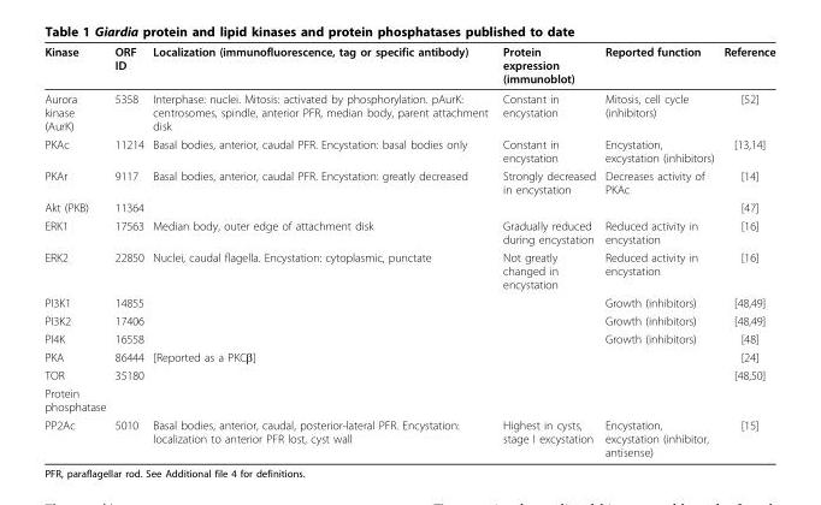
<table><thead><tr><td>Kinase</td><td>ORF ID</td><td>Localization (immunofluorescence, tag or specific antibody)</td><td>Protein expression (immunoblot)</td><td>Reported function</td><td>Reference</td></tr></thead><tbody><tr><td>Aurora kinase (AurK)</td><td>5358</td><td>Interphase: nuclei. Mitosis: activated by phosphorylation. pAurK: centrosomes, spindle, anterior PFR, median body, parent attachment disk</td><td>Constant in encystation</td><td>Mitosis, cell cycle (inhibitors)</td><td>[52]</td></tr><tr><td>PKAc</td><td>11214</td><td>Basal bodies, anterior, caudal PFR. Encystation: basal bodies only</td><td>Constant in encystation</td><td>Encystation, excystation (inhibitors)</td><td>[13,14]</td></tr><tr><td>PKAr</td><td>9117</td><td>Basal bodies, anterior, caudal PFR. Encystation: greatly decreased</td><td>Strongly decreased in encystation</td><td>Decreases activity of PKAc</td><td>[14]</td></tr><tr><td>Akt (PKB)</td><td>11364</td><td></td><td></td><td></td><td>[47]</td></tr><tr><td>ERK1</td><td>17563</td><td>Median body, outer edge of attachment disk</td><td>Gradually reduced during encystation</td><td>Reduced activity in encystation</td><td>[16]</td></tr><tr><td>ERK2</td><td>22850</td><td>Nuclei, caudal flagella. Encystation: cytoplasmic, punctate</td><td>Not greatly changed in encystation</td><td>Reduced activity in encystation</td><td>[16]</td></tr><tr><td>PI3K1</td><td>14855</td><td></td><td></td><td>Growth (inhibitors)</td><td>[48,49]</td></tr><tr><td>PI3K2</td><td>17406</td><td></td><td></td><td>Growth (inhibitors)</td><td>[48,49]</td></tr><tr><td>PI4K</td><td>16558</td><td></td><td></td><td>Growth (inhibitors)</td><td>[48]</td></tr><tr><td>PKA</td><td>86444</td><td>[Reported as a PKCβ]</td><td></td><td></td><td>[24]</td></tr><tr><td>TOR</td><td>35180</td><td></td><td></td><td></td><td>[48,50]</td></tr><tr><td colspan="6">Protein phosphatase</td></tr><tr><td>PP2Ac</td><td>5010</td><td>Basal bodies, anterior, caudal, posterior-lateral PFR. Encystation: localization to anterior PFR lost, cyst wall</td><td>Highest in cysts, stage I excystation</td><td>Encystation, excystation (inhibitor, antisense)</td><td>[15]</td></tr></tbody></table>